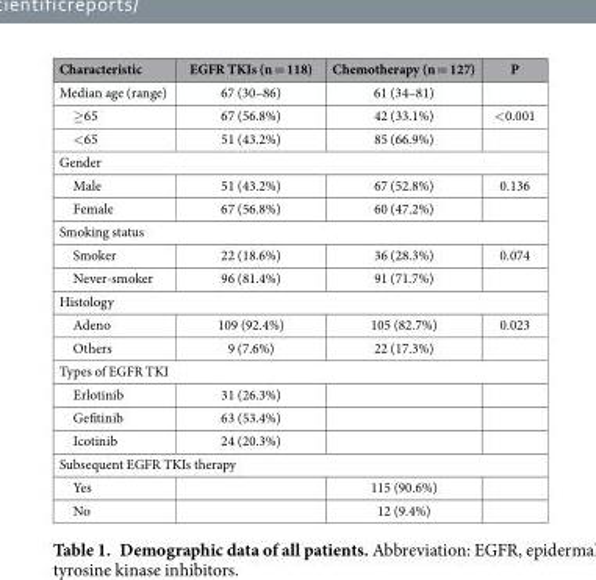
<table><thead><tr><td>Characteristic</td><td>EGFR TKIs (n = 118)</td><td>Chemotherapy (n = 127)</td><td>P</td></tr></thead><tbody><tr><td>Median age (range)</td><td>67 (30–86)</td><td>61 (34–81)</td><td></td></tr><tr><td>≥ 65</td><td>67 (56.8%)</td><td>42 (33.1%)</td><td>&lt; 0.001</td></tr><tr><td>&lt; 65</td><td>51 (43.2%)</td><td>85 (66.9%)</td><td></td></tr><tr><td colspan="4">Gender</td></tr><tr><td>Male</td><td>51 (43.2%)</td><td>67 (52.8%)</td><td>0.136</td></tr><tr><td>Female</td><td>67 (56.8%)</td><td>60 (47.2%)</td><td></td></tr><tr><td colspan="4">Smoking status</td></tr><tr><td>Smoker</td><td>22 (18.6%)</td><td>36 (28.3%)</td><td>0.074</td></tr><tr><td>Never-smoker</td><td>96 (81.4%)</td><td>91 (71.7%)</td><td></td></tr><tr><td colspan="4">Histology</td></tr><tr><td>Adeno</td><td>109 (92.4%)</td><td>105 (82.7%)</td><td>0.023</td></tr><tr><td>Others</td><td>9 (7.6%)</td><td>22 (17.3%)</td><td></td></tr><tr><td colspan="4">Types of EGFR TKI</td></tr><tr><td>Erlotinib</td><td>31 (26.3%)</td><td></td><td></td></tr><tr><td>Gefitinib</td><td>63 (53.4%)</td><td></td><td></td></tr><tr><td>Icotinib</td><td>24 (20.3%)</td><td></td><td></td></tr><tr><td colspan="4">Subsequent EGFR TKIs therapy</td></tr><tr><td>Yes</td><td></td><td>115 (90.6%)</td><td></td></tr><tr><td>No</td><td></td><td>12 (9.4%)</td><td></td></tr></tbody></table>